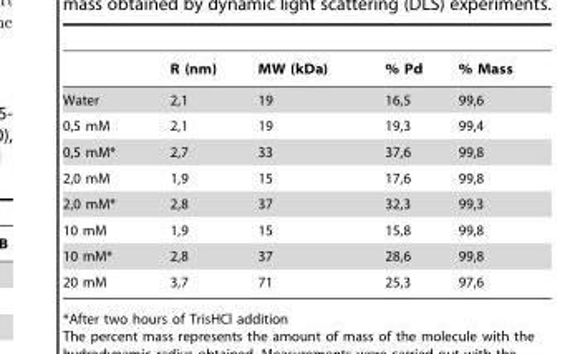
<table><thead><tr><td></td><td>R (nm)</td><td>MW (kDa)</td><td>% Pd</td><td>% Mass</td></tr></thead><tbody><tr><td>Water</td><td>2,1</td><td>19</td><td>16,5</td><td>99,6</td></tr><tr><td>0,5 mM</td><td>2,1</td><td>19</td><td>19,3</td><td>99,4</td></tr><tr><td>0,5 mM*</td><td>2,7</td><td>33</td><td>37,6</td><td>99,8</td></tr><tr><td>2,0 mM</td><td>1,9</td><td>15</td><td>17,6</td><td>99,8</td></tr><tr><td>2,0 mM*</td><td>2,8</td><td>37</td><td>32,3</td><td>99,3</td></tr><tr><td>10 mM</td><td>1,9</td><td>15</td><td>15,8</td><td>99,8</td></tr><tr><td>10 mM*</td><td>2,8</td><td>37</td><td>28,6</td><td>99,8</td></tr><tr><td>20 mM</td><td>3,7</td><td>71</td><td>25,3</td><td>97,6</td></tr></tbody></table>